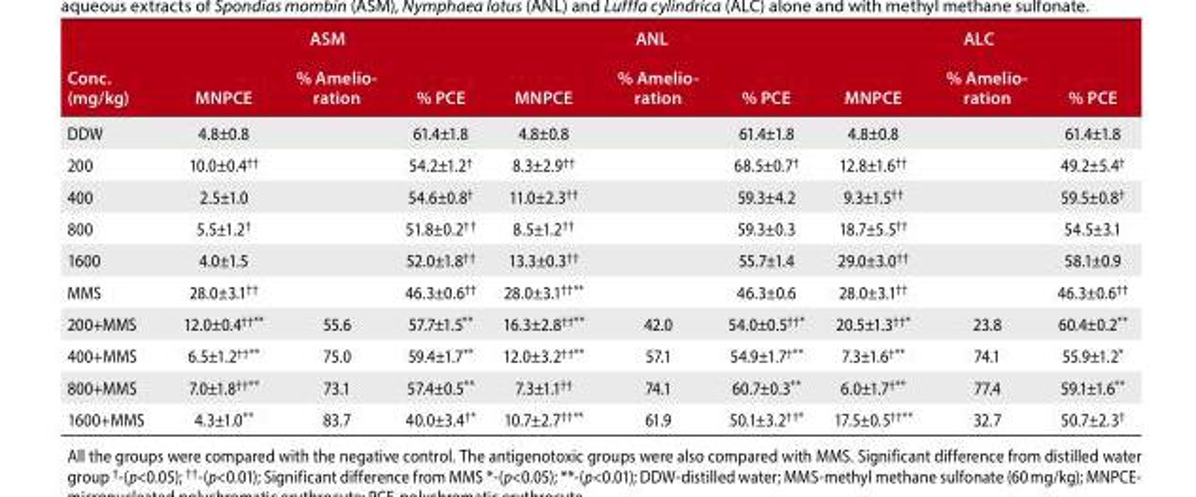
<table><thead><tr><td>Conc. (mg/kg)</td><td>MNPCE</td><td>% Amelio- ration</td><td>% PCE</td><td>MNPCE</td><td>% Amelio- ration</td><td>% PCE</td><td>MNPCE</td><td>% Amelio- ration</td><td>% PCE</td></tr></thead><tbody><tr><td>DDW</td><td>4.8±0.8</td><td></td><td>61.4±1.8</td><td>4.8±0.8</td><td></td><td>61.4±1.8</td><td>4.8±0.8</td><td></td><td>61.4±1.8</td></tr><tr><td>200</td><td>10.0±0.4<sup>††</sup></td><td></td><td>54.2±1.2<sup>†</sup></td><td>8.3±2.9<sup>††</sup></td><td></td><td>68.5±0.7<sup>†</sup></td><td>12.8±1.6<sup>††</sup></td><td></td><td>49.2±5.4<sup>†</sup></td></tr><tr><td>400</td><td>2.5±1.0</td><td></td><td>54.6±0.8<sup>†</sup></td><td>11.0±2.3<sup>††</sup></td><td></td><td>59.3±4.2</td><td>9.3±1.5<sup>††</sup></td><td></td><td>59.5±0.8<sup>†</sup></td></tr><tr><td>800</td><td>5.5±1.2<sup>†</sup></td><td></td><td>51.8±0.2<sup>††</sup></td><td>8.5±1.2<sup>††</sup></td><td></td><td>59.3±0.3</td><td>18.7±5.5<sup>††</sup></td><td></td><td>54.5±3.1</td></tr><tr><td>1600</td><td>4.0±1.5</td><td></td><td>52.0±1.8<sup>††</sup></td><td>13.3±0.3<sup>††</sup></td><td></td><td>55.7±1.4</td><td>29.0±3.0<sup>††</sup></td><td></td><td>58.1±0.9</td></tr><tr><td>MMS</td><td>28.0±3.1<sup>††</sup></td><td></td><td>46.3±0.6<sup>††</sup></td><td>28.0±3.1<sup>††</sup>**</td><td></td><td>46.3±0.6</td><td>28.0±3.1<sup>††</sup></td><td></td><td>46.3±0.6<sup>††</sup></td></tr><tr><td>200+MMS</td><td>12.0±0.4<sup>††</sup>**</td><td>55.6</td><td>57.7±1.5**</td><td>16.3±2.8<sup>††</sup>**</td><td>42.0</td><td>54.0±0.5<sup>††</sup>*</td><td>20.5±1.3<sup>††</sup>*</td><td>23.8</td><td>60.4±0.2**</td></tr><tr><td>400+MMS</td><td>6.5±1.2<sup>††</sup>**</td><td>75.0</td><td>59.4±1.7**</td><td>12.0±3.2<sup>††</sup>**</td><td>57.1</td><td>54.9±1.7<sup>†</sup>**</td><td>7.3±1.6<sup>†</sup>**</td><td>74.1</td><td>55.9±1.2*</td></tr><tr><td>800+MMS</td><td>7.0±1.8<sup>††</sup>**</td><td>73.1</td><td>57.4±0.5**</td><td>7.3±1.1<sup>††</sup></td><td>74.1</td><td>60.7±0.3**</td><td>6.0±1.7<sup>†</sup>**</td><td>77.4</td><td>59.1±1.6**</td></tr><tr><td>1600+MMS</td><td>4.3±1.0**</td><td>83.7</td><td>40.0±3.4<sup>†</sup>*</td><td>10.7±2.7<sup>††</sup>**</td><td>61.9</td><td>50.1±3.2<sup>††</sup>*</td><td>17.5±0.5<sup>††</sup>**</td><td>32.7</td><td>50.7±2.3<sup>†</sup></td></tr></tbody></table>